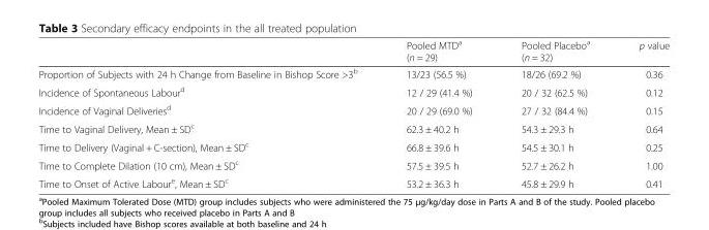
<table><thead><tr><td></td><td>Pooled MTD<sup>a</sup> (n = 29)</td><td>Pooled Placebo<sup>a</sup> (n = 32)</td><td>p value</td></tr></thead><tbody><tr><td>Proportion of Subjects with 24 h Change from Baseline in Bishop Score &gt;3<sup>b</sup></td><td>13/23 (56.5 %)</td><td>18/26 (69.2 %)</td><td>0.36</td></tr><tr><td>Incidence of Spontaneous Labour<sup>d</sup></td><td>12 / 29 (41.4 %)</td><td>20 / 32 (62.5 %)</td><td>0.12</td></tr><tr><td>Incidence of Vaginal Deliveries<sup>d</sup></td><td>20 / 29 (69.0 %)</td><td>27 / 32 (84.4 %)</td><td>0.15</td></tr><tr><td>Time to Vaginal Delivery, Mean ± SD<sup>c</sup></td><td>62.3 ± 40.2 h</td><td>54.3 ± 29.3 h</td><td>0.64</td></tr><tr><td>Time to Delivery (Vaginal + C-section), Mean ± SD<sup>c</sup></td><td>66.8 ± 39.6 h</td><td>54.5 ± 30.1 h</td><td>0.25</td></tr><tr><td>Time to Complete Dilation (10 cm), Mean ± SD<sup>c</sup></td><td>57.5 ± 39.5 h</td><td>52.7 ± 26.2 h</td><td>1.00</td></tr><tr><td>Time to Onset of Active Labour<sup>e</sup>, Mean ± SD<sup>c</sup></td><td>53.2 ± 36.3 h</td><td>45.8 ± 29.9 h</td><td>0.41</td></tr></tbody></table>